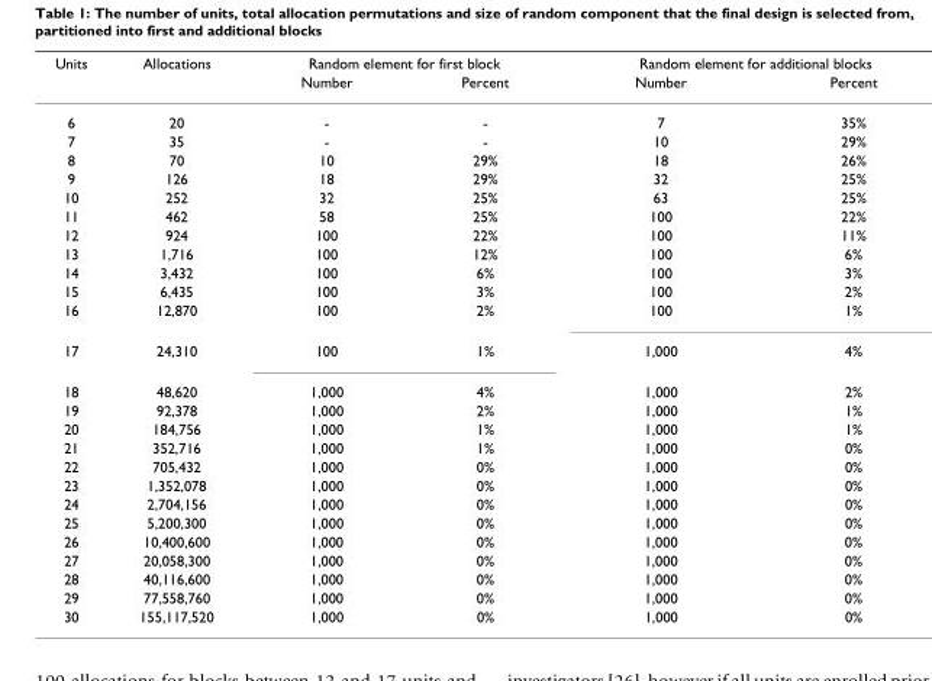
<table><thead><tr><td rowspan="2">Units</td><td rowspan="2">Allocations</td><td colspan="2">Random element for first block</td><td colspan="2">Random element for additional blocks</td></tr><tr><td>Number</td><td>Percent</td><td>Number</td><td>Percent</td></tr></thead><tbody><tr><td>6</td><td>20</td><td>-</td><td>-</td><td>7</td><td>35%</td></tr><tr><td>7</td><td>35</td><td>-</td><td>-</td><td>10</td><td>29%</td></tr><tr><td>8</td><td>70</td><td>10</td><td>29%</td><td>18</td><td>26%</td></tr><tr><td>9</td><td>126</td><td>18</td><td>29%</td><td>32</td><td>25%</td></tr><tr><td>10</td><td>252</td><td>32</td><td>25%</td><td>63</td><td>25%</td></tr><tr><td>11</td><td>462</td><td>58</td><td>25%</td><td>100</td><td>22%</td></tr><tr><td>12</td><td>924</td><td>100</td><td>22%</td><td>100</td><td>11%</td></tr><tr><td>13</td><td>1,716</td><td>100</td><td>12%</td><td>100</td><td>6%</td></tr><tr><td>14</td><td>3,432</td><td>100</td><td>6%</td><td>100</td><td>3%</td></tr><tr><td>15</td><td>6,435</td><td>100</td><td>3%</td><td>100</td><td>2%</td></tr><tr><td>16</td><td>12,870</td><td>100</td><td>2%</td><td>100</td><td>1%</td></tr><tr><td>17</td><td>24,310</td><td>100</td><td>1%</td><td>1,000</td><td>4%</td></tr><tr><td>18</td><td>48,620</td><td>1,000</td><td>4%</td><td>1,000</td><td>2%</td></tr><tr><td>19</td><td>92,378</td><td>1,000</td><td>2%</td><td>1,000</td><td>1%</td></tr><tr><td>20</td><td>184,756</td><td>1,000</td><td>1%</td><td>1,000</td><td>1%</td></tr><tr><td>21</td><td>352,716</td><td>1,000</td><td>1%</td><td>1,000</td><td>0%</td></tr><tr><td>22</td><td>705,432</td><td>1,000</td><td>0%</td><td>1,000</td><td>0%</td></tr><tr><td>23</td><td>1,352,078</td><td>1,000</td><td>0%</td><td>1,000</td><td>0%</td></tr><tr><td>24</td><td>2,704,156</td><td>1,000</td><td>0%</td><td>1,000</td><td>0%</td></tr><tr><td>25</td><td>5,200,300</td><td>1,000</td><td>0%</td><td>1,000</td><td>0%</td></tr><tr><td>26</td><td>10,400,600</td><td>1,000</td><td>0%</td><td>1,000</td><td>0%</td></tr><tr><td>27</td><td>20,058,300</td><td>1,000</td><td>0%</td><td>1,000</td><td>0%</td></tr><tr><td>28</td><td>40,116,600</td><td>1,000</td><td>0%</td><td>1,000</td><td>0%</td></tr><tr><td>29</td><td>77,558,760</td><td>1,000</td><td>0%</td><td>1,000</td><td>0%</td></tr><tr><td>30</td><td>155,117,520</td><td>1,000</td><td>0%</td><td>1,000</td><td>0%</td></tr></tbody></table>